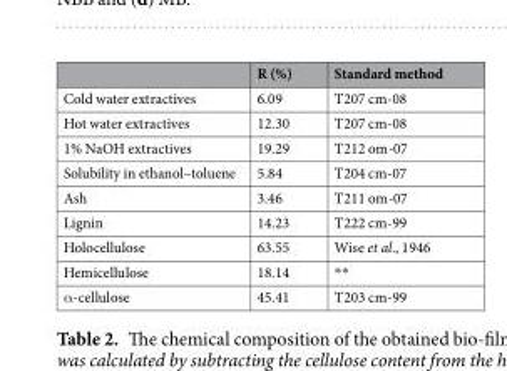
<table><thead><tr><td></td><td>R (%)</td><td>Standard method</td></tr></thead><tbody><tr><td>Cold water extractives</td><td>6.09</td><td>T207 cm-08</td></tr><tr><td>Hot water extractives</td><td>12.30</td><td>T207 cm-08</td></tr><tr><td>1% NaOH extractives</td><td>19.29</td><td>T212 om-07</td></tr><tr><td>Solubility in ethanol–toluene</td><td>5.84</td><td>T204 cm-07</td></tr><tr><td>Ash</td><td>3.46</td><td>T211 om-07</td></tr><tr><td>Lignin</td><td>14.23</td><td>T222 cm-99</td></tr><tr><td>Holocellulose</td><td>63.55</td><td>Wise et al., 1946</td></tr><tr><td>Hemicellulose</td><td>18.14</td><td>**</td></tr><tr><td>α-cellulose</td><td>45.41</td><td>T203 cm-99</td></tr></tbody></table>